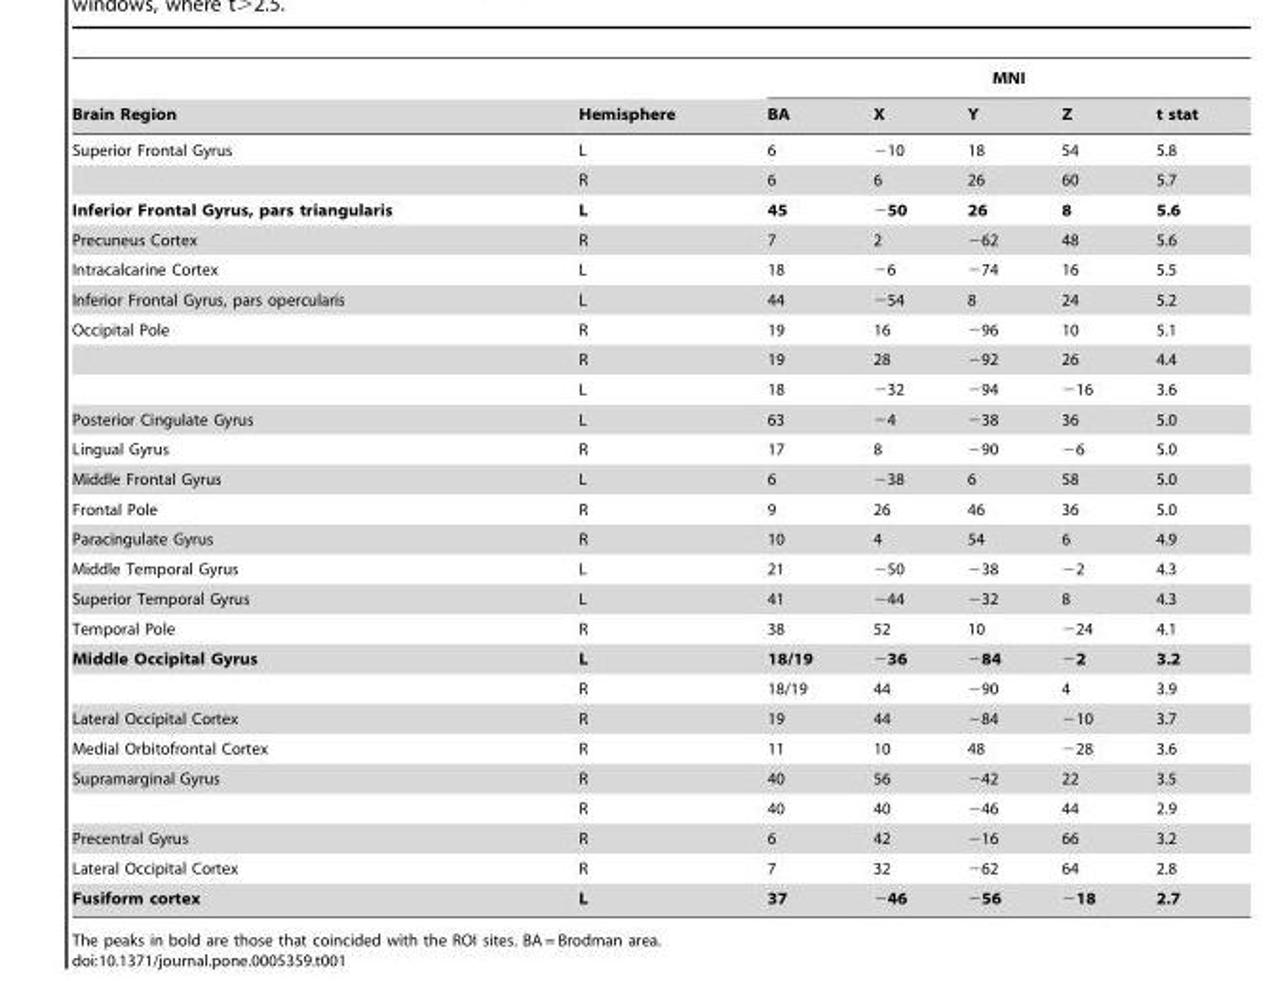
<table><thead><tr><td rowspan="2">Brain Region</td><td rowspan="2">Hemisphere</td><td colspan="5">MNI</td></tr><tr><td>BA</td><td>X</td><td>Y</td><td>Z</td><td>t stat</td></tr></thead><tbody><tr><td rowspan="2">Superior Frontal Gyrus</td><td>L</td><td>6</td><td>−10</td><td>18</td><td>54</td><td>5.8</td></tr><tr><td>R</td><td>6</td><td>6</td><td>26</td><td>60</td><td>5.7</td></tr><tr><td>Inferior Frontal Gyrus, pars triangularis</td><td>L</td><td>45</td><td>−50</td><td>26</td><td>8</td><td>5.6</td></tr><tr><td>Precuneus Cortex</td><td>R</td><td>7</td><td>2</td><td>−62</td><td>48</td><td>5.6</td></tr><tr><td>Intracalcarine Cortex</td><td>L</td><td>18</td><td>−6</td><td>−74</td><td>16</td><td>5.5</td></tr><tr><td>Inferior Frontal Gyrus, pars opercularis</td><td>L</td><td>44</td><td>−54</td><td>8</td><td>24</td><td>5.2</td></tr><tr><td rowspan="3">Occipital Pole</td><td>R</td><td>19</td><td>16</td><td>−96</td><td>10</td><td>5.1</td></tr><tr><td>R</td><td>19</td><td>28</td><td>−92</td><td>26</td><td>4.4</td></tr><tr><td>L</td><td>18</td><td>−32</td><td>−94</td><td>−16</td><td>3.6</td></tr><tr><td>Posterior Cingulate Gyrus</td><td>L</td><td>63</td><td>−4</td><td>−38</td><td>36</td><td>5.0</td></tr><tr><td>Lingual Gyrus</td><td>R</td><td>17</td><td>8</td><td>−90</td><td>−6</td><td>5.0</td></tr><tr><td>Middle Frontal Gyrus</td><td>L</td><td>6</td><td>−38</td><td>6</td><td>58</td><td>5.0</td></tr><tr><td>Frontal Pole</td><td>R</td><td>9</td><td>26</td><td>46</td><td>36</td><td>5.0</td></tr><tr><td>Paracingulate Gyrus</td><td>R</td><td>10</td><td>4</td><td>54</td><td>6</td><td>4.9</td></tr><tr><td>Middle Temporal Gyrus</td><td>L</td><td>21</td><td>−50</td><td>−38</td><td>−2</td><td>4.3</td></tr><tr><td>Superior Temporal Gyrus</td><td>L</td><td>41</td><td>−44</td><td>−32</td><td>8</td><td>4.3</td></tr><tr><td>Temporal Pole</td><td>R</td><td>38</td><td>52</td><td>10</td><td>−24</td><td>4.1</td></tr><tr><td rowspan="2">Middle Occipital Gyrus</td><td>L</td><td>18/19</td><td>−36</td><td>−84</td><td>−2</td><td>3.2</td></tr><tr><td>R</td><td>18/19</td><td>44</td><td>−90</td><td>4</td><td>3.9</td></tr><tr><td>Lateral Occipital Cortex</td><td>R</td><td>19</td><td>44</td><td>−84</td><td>−10</td><td>3.7</td></tr><tr><td>Medial Orbitofrontal Cortex</td><td>R</td><td>11</td><td>10</td><td>48</td><td>−28</td><td>3.6</td></tr><tr><td rowspan="2">Supramarginal Gyrus</td><td>R</td><td>40</td><td>56</td><td>−42</td><td>22</td><td>3.5</td></tr><tr><td>R</td><td>40</td><td>40</td><td>−46</td><td>44</td><td>2.9</td></tr><tr><td>Precentral Gyrus</td><td>R</td><td>6</td><td>42</td><td>−16</td><td>66</td><td>3.2</td></tr><tr><td>Lateral Occipital Cortex</td><td>R</td><td>7</td><td>32</td><td>−62</td><td>64</td><td>2.8</td></tr><tr><td>Fusiform cortex</td><td>L</td><td>37</td><td>−46</td><td>−56</td><td>−18</td><td>2.7</td></tr></tbody></table>